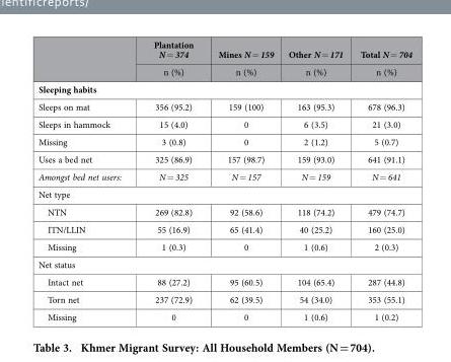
<table><thead><tr><td rowspan="2"></td><td rowspan="2">Plantation N = 374 n (%)</td><td rowspan="2">Mines N = 159 n (%)</td><td rowspan="2">Other N = 171 n (%)</td><td rowspan="2">Total N = 704 n (%)</td></tr><tr></tr></thead><tbody><tr><td colspan="5">Sleeping habits</td></tr><tr><td>Sleeps on mat</td><td>356 (95.2)</td><td>159 (100)</td><td>163 (95.3)</td><td>678 (96.3)</td></tr><tr><td>Sleeps in hammock</td><td>15 (4.0)</td><td>0</td><td>6 (3.5)</td><td>21 (3.0)</td></tr><tr><td>Missing</td><td>3 (0.8)</td><td>0</td><td>2 (1.2)</td><td>5 (0.7)</td></tr><tr><td>Uses a bed net</td><td>325 (86.9)</td><td>157 (98.7)</td><td>159 (93.0)</td><td>641 (91.1)</td></tr><tr><td>Amongst bed net users:</td><td>N = 325</td><td>N = 157</td><td>N = 159</td><td>N = 641</td></tr><tr><td colspan="5">Net type</td></tr><tr><td>NTN</td><td>269 (82.8)</td><td>92 (58.6)</td><td>118 (74.2)</td><td>479 (74.7)</td></tr><tr><td>ITN/LLIN</td><td>55 (16.9)</td><td>65 (41.4)</td><td>40 (25.2)</td><td>160 (25.0)</td></tr><tr><td>Missing</td><td>1 (0.3)</td><td>0</td><td>1 (0.6)</td><td>2 (0.3)</td></tr><tr><td colspan="5">Net status</td></tr><tr><td>Intact net</td><td>88 (27.2)</td><td>95 (60.5)</td><td>104 (65.4)</td><td>287 (44.8)</td></tr><tr><td>Torn net</td><td>237 (72.9)</td><td>62 (39.5)</td><td>54 (34.0)</td><td>353 (55.1)</td></tr><tr><td>Missing</td><td>0</td><td>0</td><td>1 (0.6)</td><td>1 (0.2)</td></tr></tbody></table>